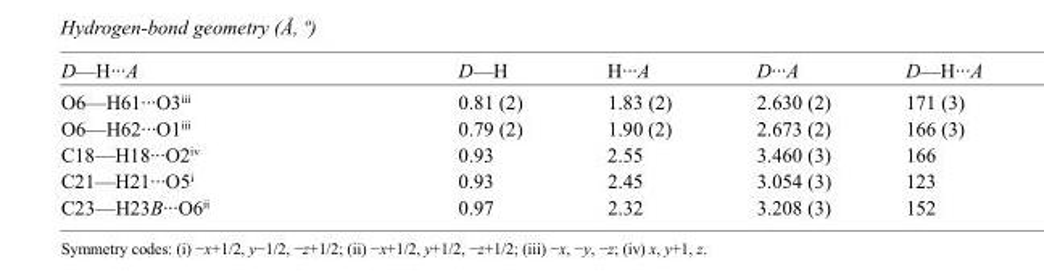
<table><tbody><tr><td>D—H···A</td><td>D—H</td><td>H···A</td><td>D···A</td><td>D—H···A</td></tr><tr><td>O6—H61···O3<sup>iii</sup></td><td>0.81 (2)</td><td>1.83 (2)</td><td>2.630 (2)</td><td>171 (3)</td></tr><tr><td>O6—H62···O1<sup>iii</sup></td><td>0.79 (2)</td><td>1.90 (2)</td><td>2.673 (2)</td><td>166 (3)</td></tr><tr><td>C18—H18···O2<sup>iv</sup></td><td>0.93</td><td>2.55</td><td>3.460 (3)</td><td>166</td></tr><tr><td>C21—H21···O5<sup>i</sup></td><td>0.93</td><td>2.45</td><td>3.054 (3)</td><td>123</td></tr><tr><td>C23—H23B···O6<sup>ii</sup></td><td>0.97</td><td>2.32</td><td>3.208 (3)</td><td>152</td></tr></tbody></table>